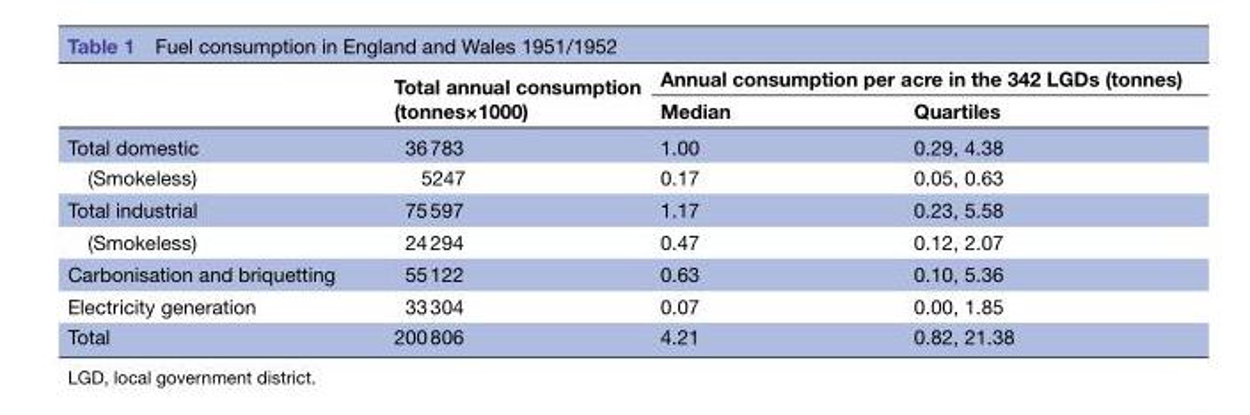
<table><thead><tr><td rowspan="2"></td><td rowspan="2">Total annual consumption (tonnes×1000)</td><td colspan="2">Annual consumption per acre in the 342 LGDs (tonnes)</td></tr><tr><td>Median</td><td>Quartiles</td></tr></thead><tbody><tr><td>Total domestic</td><td>36 783</td><td>1.00</td><td>0.29, 4.38</td></tr><tr><td>(Smokeless)</td><td>5247</td><td>0.17</td><td>0.05, 0.63</td></tr><tr><td>Total industrial</td><td>75 597</td><td>1.17</td><td>0.23, 5.58</td></tr><tr><td>(Smokeless)</td><td>24 294</td><td>0.47</td><td>0.12, 2.07</td></tr><tr><td>Carbonisation and briquetting</td><td>55 122</td><td>0.63</td><td>0.10, 5.36</td></tr><tr><td>Electricity generation</td><td>33 304</td><td>0.07</td><td>0.00, 1.85</td></tr><tr><td>Total</td><td>200 806</td><td>4.21</td><td>0.82, 21.38</td></tr></tbody></table>